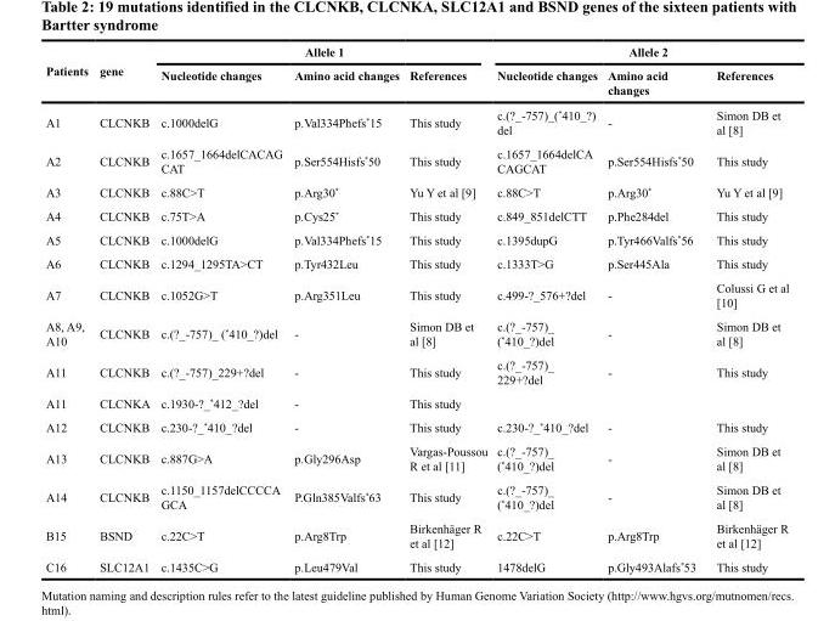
<table><thead><tr><td rowspan="2">Patients</td><td rowspan="2">gene</td><td colspan="3">Allele 1</td><td colspan="3">Allele 2</td></tr><tr><td>Nucleotide changes</td><td>Amino acid changes</td><td>References</td><td>Nucleotide changes</td><td>Amino acid changes</td><td>References</td></tr></thead><tbody><tr><td>A1</td><td>CLCNKB</td><td>c.1000delG</td><td>p.Val334Phefs*15</td><td>This study</td><td>c.(?_-757)_(*410_?) del</td><td>-</td><td>Simon DB et al [8]</td></tr><tr><td>A2</td><td>CLCNKB</td><td>c.1657_1664delCACAG CAT</td><td>p.Ser554Hisfs*50</td><td>This study</td><td>c.1657_1664delCA CAGCAT</td><td>p.Ser554Hisfs*50</td><td>This study</td></tr><tr><td>A3</td><td>CLCNKB</td><td>c.88C&gt;T</td><td>p.Arg30*</td><td>Yu Y et al [9]</td><td>c.88C&gt;T</td><td>p.Arg30*</td><td>Yu Y et al [9]</td></tr><tr><td>A4</td><td>CLCNKB</td><td>c.75T&gt;A</td><td>p.Cys25*</td><td>This study</td><td>c.849_851delCTT</td><td>p.Phe284del</td><td>This study</td></tr><tr><td>A5</td><td>CLCNKB</td><td>c.1000delG</td><td>p.Val334Phefs*15</td><td>This study</td><td>c.1395dupG</td><td>p.Tyr466Valfs*56</td><td>This study</td></tr><tr><td>A6</td><td>CLCNKB</td><td>c.1294_1295TA&gt;CT</td><td>p.Tyr432Leu</td><td>This study</td><td>c.1333T&gt;G</td><td>p.Ser445Ala</td><td>This study</td></tr><tr><td>A7</td><td>CLCNKB</td><td>c.1052G&gt;T</td><td>p.Arg351Leu</td><td>This study</td><td>c.499-?_576+?del</td><td>-</td><td>Colussi G et al [10]</td></tr><tr><td>A8, A9, A10</td><td>CLCNKB</td><td>c.(?_-757)_ (*410_?)del</td><td>-</td><td>Simon DB et al [8]</td><td>c.(?_-757)_ (*410_?)del</td><td>-</td><td>Simon DB et al [8]</td></tr><tr><td>A11</td><td>CLCNKB</td><td>c.(?_-757)_229+?del</td><td>-</td><td>This study</td><td>c.(?_-757)_ 229+?del</td><td>-</td><td>This study</td></tr><tr><td>A11</td><td>CLCNKA</td><td>c.1930-?_*412_?del</td><td>-</td><td>This study</td><td></td><td></td><td></td></tr><tr><td>A12</td><td>CLCNKB</td><td>c.230-?_*410_?del</td><td>-</td><td>This study</td><td>c.230-?_*410_?del</td><td>-</td><td>This study</td></tr><tr><td>A13</td><td>CLCNKB</td><td>c.887G&gt;A</td><td>p.Gly296Asp</td><td>Vargas-Poussou R et al [11]</td><td>c.(?_-757)_ (*410_?)del</td><td>-</td><td>Simon DB et al [8]</td></tr><tr><td>A14</td><td>CLCNKB</td><td>c.1150_1157delCCCCA GCA</td><td>P.Gln385Valfs*63</td><td>This study</td><td>c.(?_-757)_ (*410_?)del</td><td>-</td><td>Simon DB et al [8]</td></tr><tr><td>B15</td><td>BSND</td><td>c.22C&gt;T</td><td>p.Arg8Trp</td><td>Birkenhäger R et al [12]</td><td>c.22C&gt;T</td><td>p.Arg8Trp</td><td>Birkenhäger R et al [12]</td></tr><tr><td>C16</td><td>SLC12A1</td><td>c.1435C&gt;G</td><td>p.Leu479Val</td><td>This study</td><td>1478delG</td><td>p.Gly493Alafs*53</td><td>This study</td></tr></tbody></table>